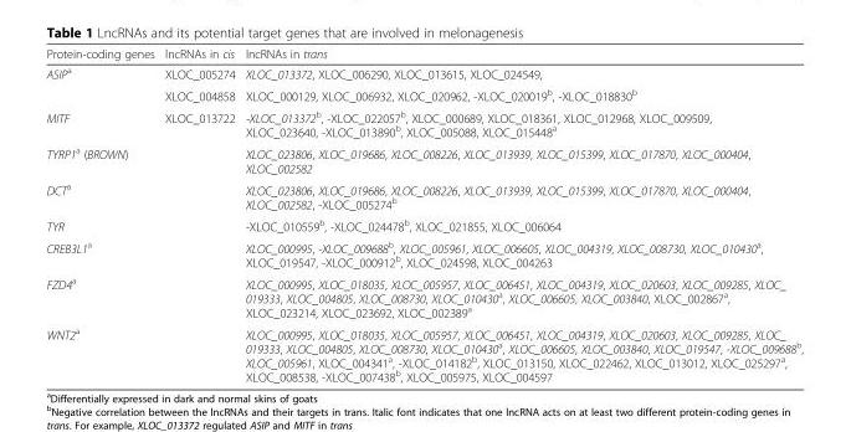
<table><thead><tr><td>Protein-coding genes</td><td>lncRNAs in cis</td><td>lncRNAs in trans</td></tr></thead><tbody><tr><td rowspan="2">ASIP<sup>a</sup></td><td>XLOC_005274</td><td>XLOC_013372, XLOC_006290, XLOC_013615, XLOC_024549,</td></tr><tr><td>XLOC_004858</td><td>XLOC_000129, XLOC_006932, XLOC_020962, -XLOC_020019<sup>b</sup>, -XLOC_018830<sup>b</sup></td></tr><tr><td>MITF</td><td>XLOC_013722</td><td>-XLOC_013372<sup>b</sup>, -XLOC_022057<sup>b</sup>, XLOC_000689, XLOC_018361, XLOC_012968, XLOC_009509, XLOC_023640, -XLOC_013890<sup>b</sup>, XLOC_005088, XLOC_015448<sup>a</sup></td></tr><tr><td>TYRP1<sup>a</sup> (BROWN)</td><td></td><td>XLOC_023806, XLOC_019686, XLOC_008226, XLOC_013939, XLOC_015399, XLOC_017870, XLOC_000404, XLOC_002582</td></tr><tr><td>DCT<sup>a</sup></td><td></td><td>XLOC_023806, XLOC_019686, XLOC_008226, XLOC_013939, XLOC_015399, XLOC_017870, XLOC_000404, XLOC_002582, -XLOC_005274<sup>b</sup></td></tr><tr><td>TYR</td><td></td><td>-XLOC_010559<sup>b</sup>, -XLOC_024478<sup>b</sup>, XLOC_021855, XLOC_006064</td></tr><tr><td>CREB3L1<sup>a</sup></td><td></td><td>XLOC_000995, -XLOC_009688<sup>b</sup>, XLOC_005961, XLOC_006605, XLOC_004319, XLOC_008730, XLOC_010430<sup>a</sup>, XLOC_019547, -XLOC_000912<sup>b</sup>, XLOC_024598, XLOC_004263</td></tr><tr><td>FZD4<sup>a</sup></td><td></td><td>XLOC_000995, XLOC_018035, XLOC_005957, XLOC_006451, XLOC_004319, XLOC_020603, XLOC_009285, XLOC_ 019333, XLOC_004805, XLOC_008730, XLOC_010430<sup>a</sup>, XLOC_006605, XLOC_003840, XLOC_002867<sup>a</sup>, XLOC_023214, XLOC_023692, XLOC_002389<sup>a</sup></td></tr><tr><td>WNT2<sup>a</sup></td><td></td><td>XLOC_000995, XLOC_018035, XLOC_005957, XLOC_006451, XLOC_004319, XLOC_020603, XLOC_009285, XLOC_ 019333, XLOC_004805, XLOC_008730, XLOC_010430a, XLOC_006605, XLOC_003840, XLOC_019547, -XLOC_009688b, XLOC_005961, XLOC_004341a, -XLOC_014182b, XLOC_013150, XLOC_022462, XLOC_013012, XLOC_025297a, XLOC_008538, -XLOC_007438b, XLOC_005975, XLOC_004597</td></tr></tbody></table>